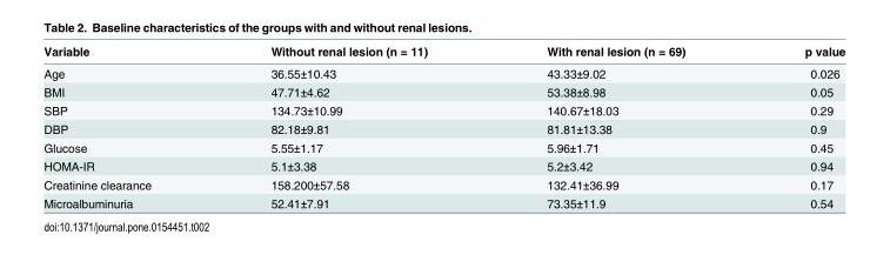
<table><thead><tr><td>Variable</td><td>Without renal lesion (n = 11)</td><td>With renal lesion (n = 69)</td><td>p value</td></tr></thead><tbody><tr><td>Age</td><td>36.55±10.43</td><td>43.33±9.02</td><td>0.026</td></tr><tr><td>BMI</td><td>47.71±4.62</td><td>53.38±8.98</td><td>0.05</td></tr><tr><td>SBP</td><td>134.73±10.99</td><td>140.67±18.03</td><td>0.29</td></tr><tr><td>DBP</td><td>82.18±9.81</td><td>81.81±13.38</td><td>0.9</td></tr><tr><td>Glucose</td><td>5.55±1.17</td><td>5.96±1.71</td><td>0.45</td></tr><tr><td>HOMA-IR</td><td>5.1±3.38</td><td>5.2±3.42</td><td>0.94</td></tr><tr><td>Creatinine clearance</td><td>158.200±57.58</td><td>132.41±36.99</td><td>0.17</td></tr><tr><td>Microalbuminuria</td><td>52.41±7.91</td><td>73.35±11.9</td><td>0.54</td></tr></tbody></table>